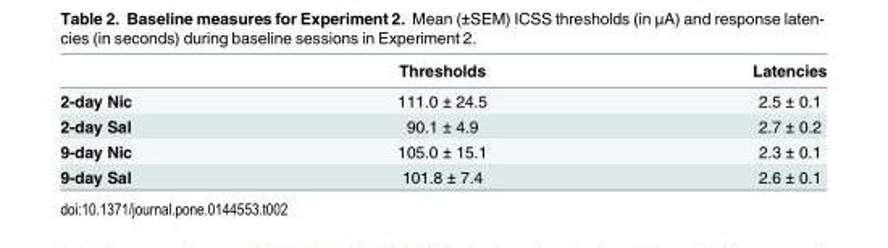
<table><thead><tr><td></td><td>Thresholds</td><td>Latencies</td></tr></thead><tbody><tr><td>2-day Nic</td><td>111.0 ± 24.5</td><td>2.5 ± 0.1</td></tr><tr><td>2-day Sal</td><td>90.1 ± 4.9</td><td>2.7 ± 0.2</td></tr><tr><td>9-day Nic</td><td>105.0 ± 15.1</td><td>2.3 ± 0.1</td></tr><tr><td>9-day Sal</td><td>101.8 ± 7.4</td><td>2.6 ± 0.1</td></tr></tbody></table>